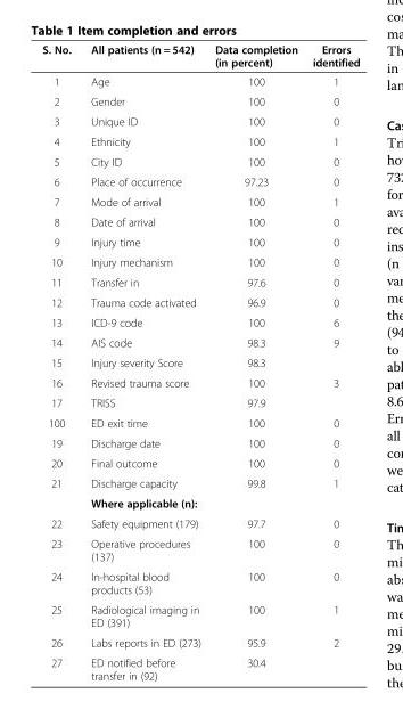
<table><thead><tr><td>S. No.</td><td>All patients (n = 542)</td><td>Data completion (in percent)</td><td>Errors identified</td></tr></thead><tbody><tr><td>1</td><td>Age</td><td>100</td><td>1</td></tr><tr><td>2</td><td>Gender</td><td>100</td><td>0</td></tr><tr><td>3</td><td>Unique ID</td><td>100</td><td>0</td></tr><tr><td>4</td><td>Ethnicity</td><td>100</td><td>1</td></tr><tr><td>5</td><td>City ID</td><td>100</td><td>0</td></tr><tr><td>6</td><td>Place of occurrence</td><td>97.23</td><td>0</td></tr><tr><td>7</td><td>Mode of arrival</td><td>100</td><td>1</td></tr><tr><td>8</td><td>Date of arrival</td><td>100</td><td>0</td></tr><tr><td>9</td><td>Injury time</td><td>100</td><td>0</td></tr><tr><td>10</td><td>Injury mechanism</td><td>100</td><td>0</td></tr><tr><td>11</td><td>Transfer in</td><td>97.6</td><td>0</td></tr><tr><td>12</td><td>Trauma code activated</td><td>96.9</td><td>0</td></tr><tr><td>13</td><td>ICD-9 code</td><td>100</td><td>6</td></tr><tr><td>14</td><td>AIS code</td><td>98.3</td><td>9</td></tr><tr><td>15</td><td>Injury severity Score</td><td>98.3</td><td></td></tr><tr><td>16</td><td>Revised trauma score</td><td>100</td><td>3</td></tr><tr><td>17</td><td>TRISS</td><td>97.9</td><td></td></tr><tr><td>100</td><td>ED exit time</td><td>100</td><td>0</td></tr><tr><td>19</td><td>Discharge date</td><td>100</td><td>0</td></tr><tr><td>20</td><td>Final outcome</td><td>100</td><td>0</td></tr><tr><td rowspan="2">21</td><td>Discharge capacity</td><td>99.8</td><td>1</td></tr><tr><td>Where applicable (n):</td><td></td><td></td></tr><tr><td>22</td><td>Safety equipment (179)</td><td>97.7</td><td>0</td></tr><tr><td>23</td><td>Operative procedures (137)</td><td>100</td><td>0</td></tr><tr><td>24</td><td>In-hospital blood products (53)</td><td>100</td><td>0</td></tr><tr><td>25</td><td>Radiological imaging in ED (391)</td><td>100</td><td>1</td></tr><tr><td>26</td><td>Labs reports in ED (273)</td><td>95.9</td><td>2</td></tr><tr><td>27</td><td>ED notified before transfer in (92)</td><td>30.4</td><td></td></tr></tbody></table>